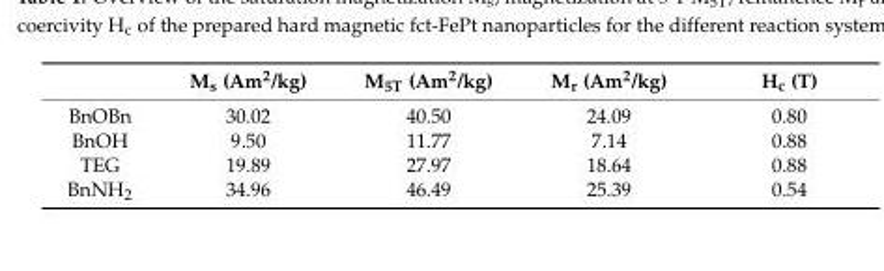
<table><thead><tr><td></td><td>M<sub>s</sub> (Am<sup>2</sup>/kg)</td><td>M<sub>5T</sub> (Am<sup>2</sup>/kg)</td><td>M<sub>r</sub> (Am<sup>2</sup>/kg)</td><td>H<sub>c</sub> (T)</td></tr></thead><tbody><tr><td>BnOBn</td><td>30.02</td><td>40.50</td><td>24.09</td><td>0.80</td></tr><tr><td>BnOH</td><td>9.50</td><td>11.77</td><td>7.14</td><td>0.88</td></tr><tr><td>TEG</td><td>19.89</td><td>27.97</td><td>18.64</td><td>0.88</td></tr><tr><td>BnNH<sub>2</sub></td><td>34.96</td><td>46.49</td><td>25.39</td><td>0.54</td></tr></tbody></table>